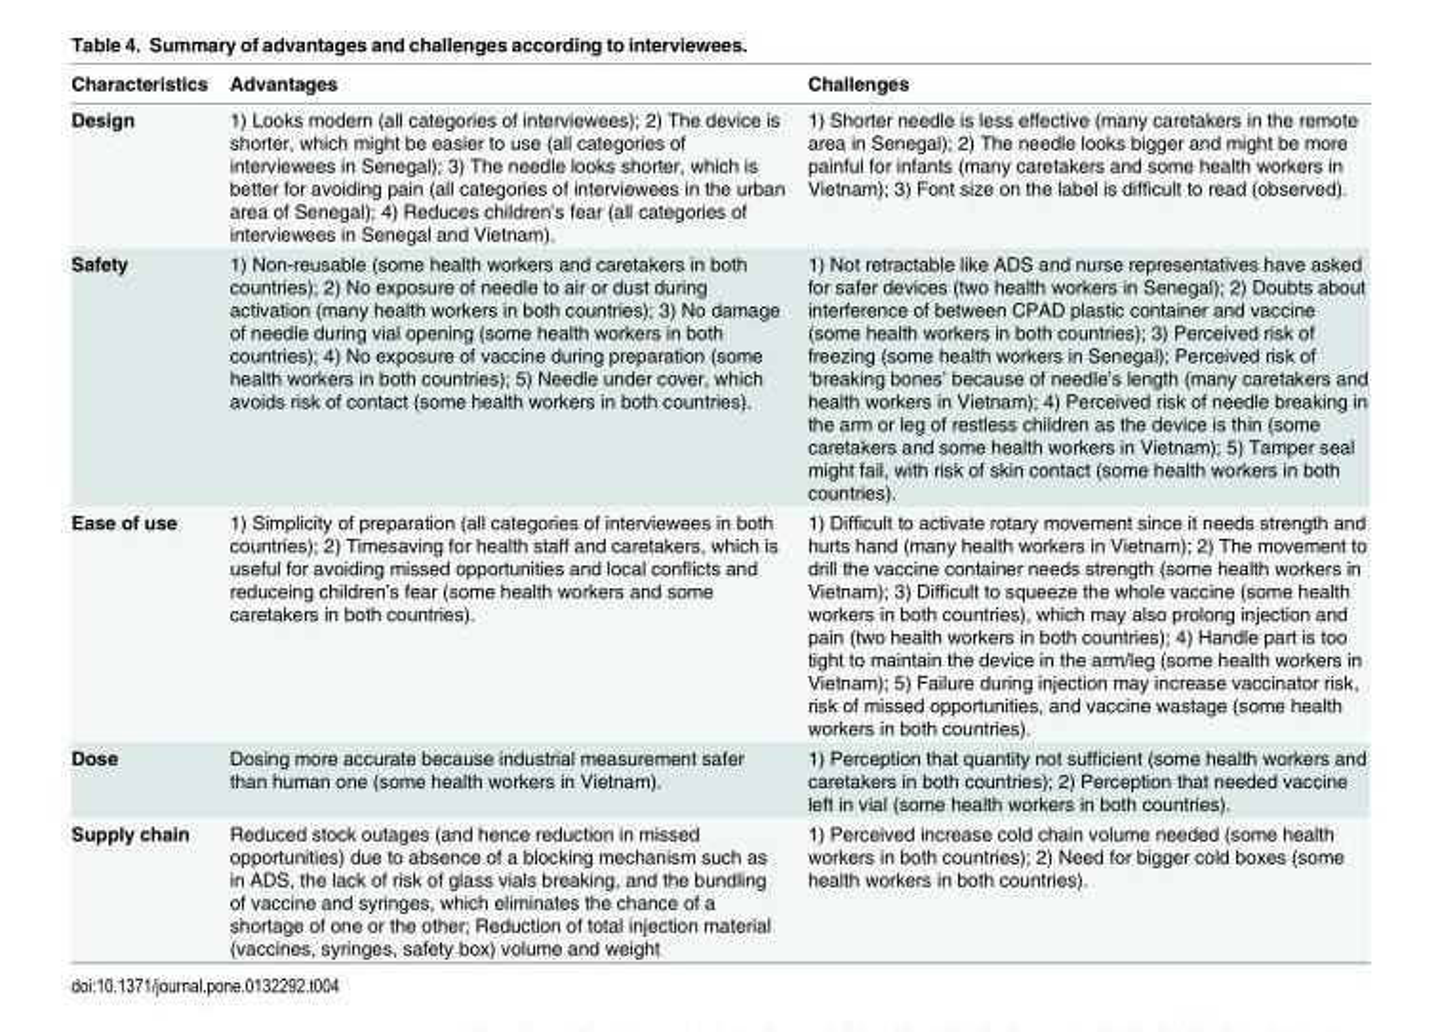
<table><thead><tr><td>Characteristics</td><td>Advantages</td><td>Challenges</td></tr></thead><tbody><tr><td>Design</td><td>1) Looks modern (all categories of interviewees); 2) The device is shorter, which might be easier to use (all categories of interviewees in Senegal); 3) The needle looks shorter, which is better for avoiding pain (all categories of interviewees in the urban area of Senegal); 4) Reduces children’s fear (all categories of interviewees in Senegal and Vietnam).</td><td>1) Shorter needle is less effective (many caretakers in the remote area in Senegal); 2) The needle looks bigger and might be more painful for infants (many caretakers and some health workers in Vietnam); 3) Font size on the label is difficult to read (observed).</td></tr><tr><td>Safety</td><td>1) Non-reusable (some health workers and caretakers in both countries); 2) No exposure of needle to air or dust during activation (many health workers in both countries); 3) No damage of needle during vial opening (some health workers in both countries); 4) No exposure of vaccine during preparation (some health workers in both countries); 5) Needle under cover, which avoids risk of contact (some health workers in both countries).</td><td>1) Not retractable like ADS and nurse representatives have asked for safer devices (two health workers in Senegal); 2) Doubts about interference of between CPAD plastic container and vaccine (some health workers in both countries); 3) Perceived risk of freezing (some health workers in Senegal); Perceived risk of ‘breaking bones’ because of needle’s length (many caretakers and health workers in Vietnam); 4) Perceived risk of needle breaking in the arm or leg of restless children as the device is thin (some caretakers and some health workers in Vietnam); 5) Tamper seal might fail, with risk of skin contact (some health workers in both countries).</td></tr><tr><td>Ease of use</td><td>1) Simplicity of preparation (all categories of interviewees in both countries); 2) Timesaving for health staff and caretakers, which is useful for avoiding missed opportunities and local conflicts and reduceing children’s fear (some health workers and some caretakers in both countries).</td><td>1) Difficult to activate rotary movement since it needs strength and hurts hand (many health workers in Vietnam); 2) The movement to drill the vaccine container needs strength (some health workers in Vietnam); 3) Difficult to squeeze the whole vaccine (some health workers in both countries), which may also prolong injection and pain (two health workers in both countries); 4) Handle part is too tight to maintain the device in the arm/leg (some health workers in Vietnam); 5) Failure during injection may increase vaccinator risk, risk of missed opportunities, and vaccine wastage (some health workers in both countries).</td></tr><tr><td>Dose</td><td>Dosing more accurate because industrial measurement safer than human one (some health workers in Vietnam).</td><td>1) Perception that quantity not sufficient (some health workers and caretakers in both countries); 2) Perception that needed vaccine left in vial (some health workers in both countries).</td></tr><tr><td>Supply chain</td><td>Reduced stock outages (and hence reduction in missed opportunities) due to absence of a blocking mechanism such as in ADS, the lack of risk of glass vials breaking, and the bundling of vaccine and syringes, which eliminates the chance of a shortage of one or the other; Reduction of total injection material (vaccines, syringes, safety box) volume and weight</td><td>1) Perceived increase cold chain volume needed (some health workers in both countries); 2) Need for bigger cold boxes (some health workers in both countries).</td></tr></tbody></table>